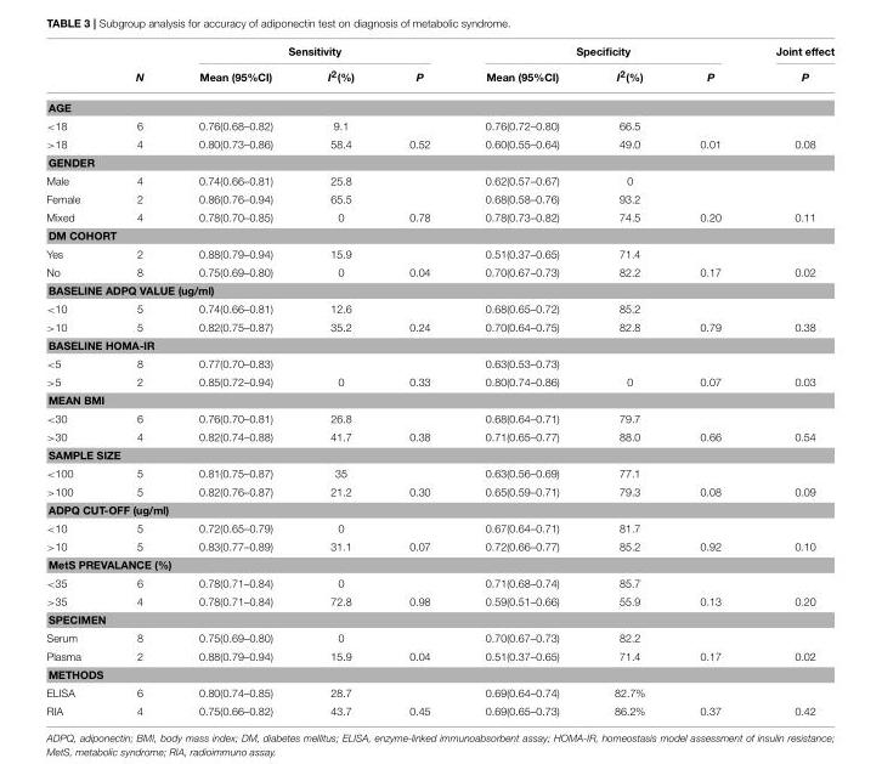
<table><thead><tr><td rowspan="2"></td><td rowspan="2">N</td><td colspan="3">Sensitivity</td><td colspan="3">Specificity</td><td rowspan="2">Joint effect P</td></tr><tr><td>Mean (95%CI)</td><td>I<sup>2</sup>(%)</td><td>P</td><td>Mean (95%CI)</td><td>I<sup>2</sup>(%)</td><td>P</td></tr></thead><tbody><tr><td colspan="9">AGE</td></tr><tr><td>&lt;18</td><td>6</td><td>0.76(0.68–0.82)</td><td>9.1</td><td></td><td>0.76(0.72–0.80)</td><td>66.5</td><td></td><td></td></tr><tr><td>&gt;18</td><td>4</td><td>0.80(0.73–0.86)</td><td>58.4</td><td>0.52</td><td>0.60(0.55–0.64)</td><td>49.0</td><td>0.01</td><td>0.08</td></tr><tr><td colspan="9">GENDER</td></tr><tr><td>Male</td><td>4</td><td>0.74(0.66–0.81)</td><td>25.8</td><td></td><td>0.62(0.57–0.67)</td><td>0</td><td></td><td></td></tr><tr><td>Female</td><td>2</td><td>0.86(0.76–0.94)</td><td>65.5</td><td></td><td>0.68(0.58–0.76)</td><td>93.2</td><td></td><td></td></tr><tr><td>Mixed</td><td>4</td><td>0.78(0.70–0.85)</td><td>0</td><td>0.78</td><td>0.78(0.73–0.82)</td><td>74.5</td><td>0.20</td><td>0.11</td></tr><tr><td colspan="9">DM COHORT</td></tr><tr><td>Yes</td><td>2</td><td>0.88(0.79–0.94)</td><td>15.9</td><td></td><td>0.51(0.37–0.65)</td><td>71.4</td><td></td><td></td></tr><tr><td>No</td><td>8</td><td>0.75(0.69–0.80)</td><td>0</td><td>0.04</td><td>0.70(0.67–0.73)</td><td>82.2</td><td>0.17</td><td>0.02</td></tr><tr><td colspan="9">BASELINE ADPQ VALUE (ug/ml)</td></tr><tr><td>&lt;10</td><td>5</td><td>0.74(0.66–0.81)</td><td>12.6</td><td></td><td>0.68(0.65–0.72)</td><td>85.2</td><td></td><td></td></tr><tr><td>&gt;10</td><td>5</td><td>0.82(0.75–0.87)</td><td>35.2</td><td>0.24</td><td>0.70(0.64–0.75)</td><td>82.8</td><td>0.79</td><td>0.38</td></tr><tr><td colspan="9">BASELINE HOMA-IR</td></tr><tr><td>&lt;5</td><td>8</td><td>0.77(0.70–0.83)</td><td></td><td></td><td>0.63(0.53–0.73)</td><td></td><td></td><td></td></tr><tr><td>&gt;5</td><td>2</td><td>0.85(0.72–0.94)</td><td>0</td><td>0.33</td><td>0.80(0.74–0.86)</td><td>0</td><td>0.07</td><td>0.03</td></tr><tr><td colspan="9">MEAN BMI</td></tr><tr><td>&lt;30</td><td>6</td><td>0.76(0.70–0.81)</td><td>26.8</td><td></td><td>0.68(0.64–0.71)</td><td>79.7</td><td></td><td></td></tr><tr><td>&gt;30</td><td>4</td><td>0.82(0.74–0.88)</td><td>41.7</td><td>0.38</td><td>0.71(0.65–0.77)</td><td>88.0</td><td>0.66</td><td>0.54</td></tr><tr><td colspan="9">SAMPLE SIZE</td></tr><tr><td>&lt;100</td><td>5</td><td>0.81(0.75–0.87)</td><td>35</td><td></td><td>0.63(0.56–0.69)</td><td>77.1</td><td></td><td></td></tr><tr><td>&gt;100</td><td>5</td><td>0.82(0.76–0.87)</td><td>21.2</td><td>0.30</td><td>0.65(0.59–0.71)</td><td>79.3</td><td>0.08</td><td>0.09</td></tr><tr><td colspan="9">ADPQ CUT-OFF (ug/ml)</td></tr><tr><td>&lt;10</td><td>5</td><td>0.72(0.65–0.79)</td><td>0</td><td></td><td>0.67(0.64–0.71)</td><td>81.7</td><td></td><td></td></tr><tr><td>&gt;10</td><td>5</td><td>0.83(0.77–0.89)</td><td>31.1</td><td>0.07</td><td>0.72(0.66–0.77)</td><td>85.2</td><td>0.92</td><td>0.10</td></tr><tr><td colspan="9">MetS PREVALANCE (%)</td></tr><tr><td>&lt;35</td><td>6</td><td>0.78(0.71–0.84)</td><td>0</td><td></td><td>0.71(0.68–0.74)</td><td>85.7</td><td></td><td></td></tr><tr><td>&gt;35</td><td>4</td><td>0.78(0.71–0.84)</td><td>72.8</td><td>0.98</td><td>0.59(0.51–0.66)</td><td>55.9</td><td>0.13</td><td>0.20</td></tr><tr><td colspan="9">SPECIMEN</td></tr><tr><td>Serum</td><td>8</td><td>0.75(0.69–0.80)</td><td>0</td><td></td><td>0.70(0.67–0.73)</td><td>82.2</td><td></td><td></td></tr><tr><td>Plasma</td><td>2</td><td>0.88(0.79–0.94)</td><td>15.9</td><td>0.04</td><td>0.51(0.37–0.65)</td><td>71.4</td><td>0.17</td><td>0.02</td></tr><tr><td colspan="9">METHODS</td></tr><tr><td>ELISA</td><td>6</td><td>0.80(0.74–0.85)</td><td>28.7</td><td></td><td>0.69(0.64–0.74)</td><td>82.7%</td><td></td><td></td></tr><tr><td>RIA</td><td>4</td><td>0.75(0.66–0.82)</td><td>43.7</td><td>0.45</td><td>0.69(0.65–0.73)</td><td>86.2%</td><td>0.37</td><td>0.42</td></tr></tbody></table>